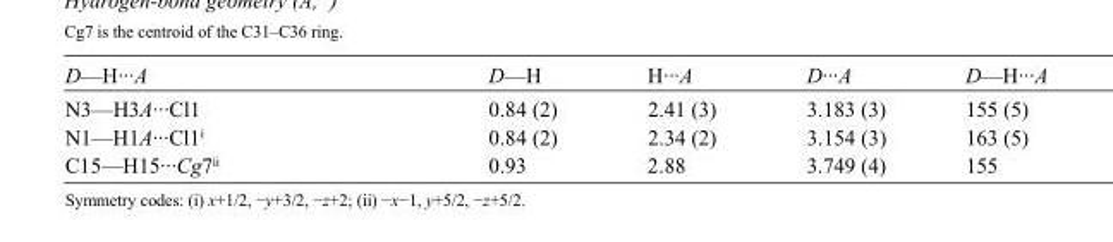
<table><tbody><tr><td>D—H···A</td><td>D—H</td><td>H···A</td><td>D···A</td><td>D—H···A</td></tr><tr><td>N3—H3A···Cl1</td><td>0.84 (2)</td><td>2.41 (3)</td><td>3.183 (3)</td><td>155 (5)</td></tr><tr><td>N1—H1A···Cl1<sup>i</sup></td><td>0.84 (2)</td><td>2.34 (2)</td><td>3.154 (3)</td><td>163 (5)</td></tr><tr><td>C15—H15···Cg7<sup>ii</sup></td><td>0.93</td><td>2.88</td><td>3.749 (4)</td><td>155</td></tr></tbody></table>